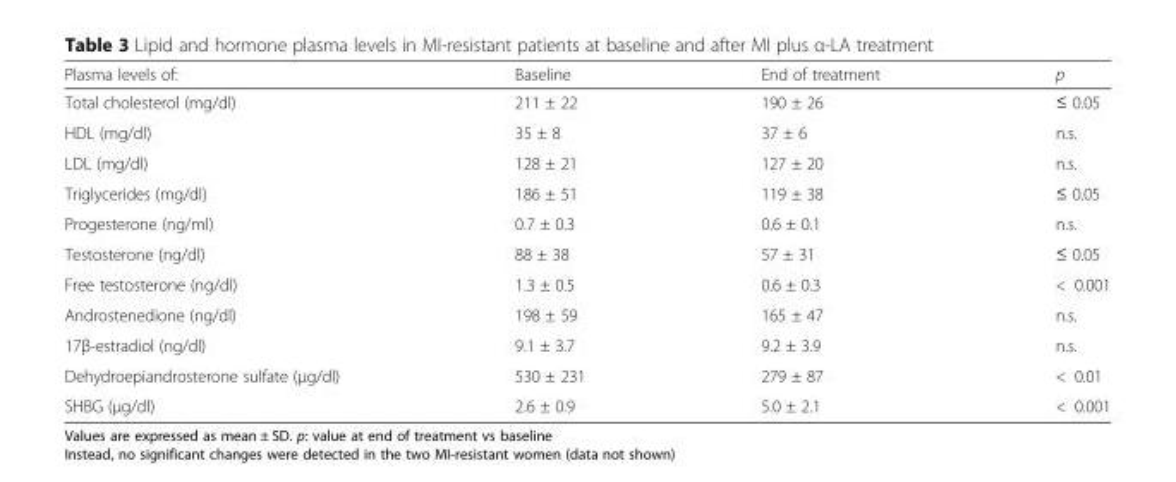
<table><thead><tr><td>Plasma levels of:</td><td>Baseline</td><td>End of treatment</td><td>p</td></tr></thead><tbody><tr><td>Total cholesterol (mg/dl)</td><td>211 ± 22</td><td>190 ± 26</td><td>≤ 0.05</td></tr><tr><td>HDL (mg/dl)</td><td>35 ± 8</td><td>37 ± 6</td><td>n.s.</td></tr><tr><td>LDL (mg/dl)</td><td>128 ± 21</td><td>127 ± 20</td><td>n.s.</td></tr><tr><td>Triglycerides (mg/dl)</td><td>186 ± 51</td><td>119 ± 38</td><td>≤ 0.05</td></tr><tr><td>Progesterone (ng/ml)</td><td>0.7 ± 0.3</td><td>0.6 ± 0.1</td><td>n.s.</td></tr><tr><td>Testosterone (ng/dl)</td><td>88 ± 38</td><td>57 ± 31</td><td>≤ 0.05</td></tr><tr><td>Free testosterone (ng/dl)</td><td>1.3 ± 0.5</td><td>0.6 ± 0.3</td><td>&lt; 0.001</td></tr><tr><td>Androstenedione (ng/dl)</td><td>198 ± 59</td><td>165 ± 47</td><td>n.s.</td></tr><tr><td>17β-estradiol (ng/dl)</td><td>9.1 ± 3.7</td><td>9.2 ± 3.9</td><td>n.s.</td></tr><tr><td>Dehydroepiandrosterone sulfate (μg/dl)</td><td>530 ± 231</td><td>279 ± 87</td><td>&lt; 0.01</td></tr><tr><td>SHBG (μg/dl)</td><td>2.6 ± 0.9</td><td>5.0 ± 2.1</td><td>&lt; 0.001</td></tr></tbody></table>